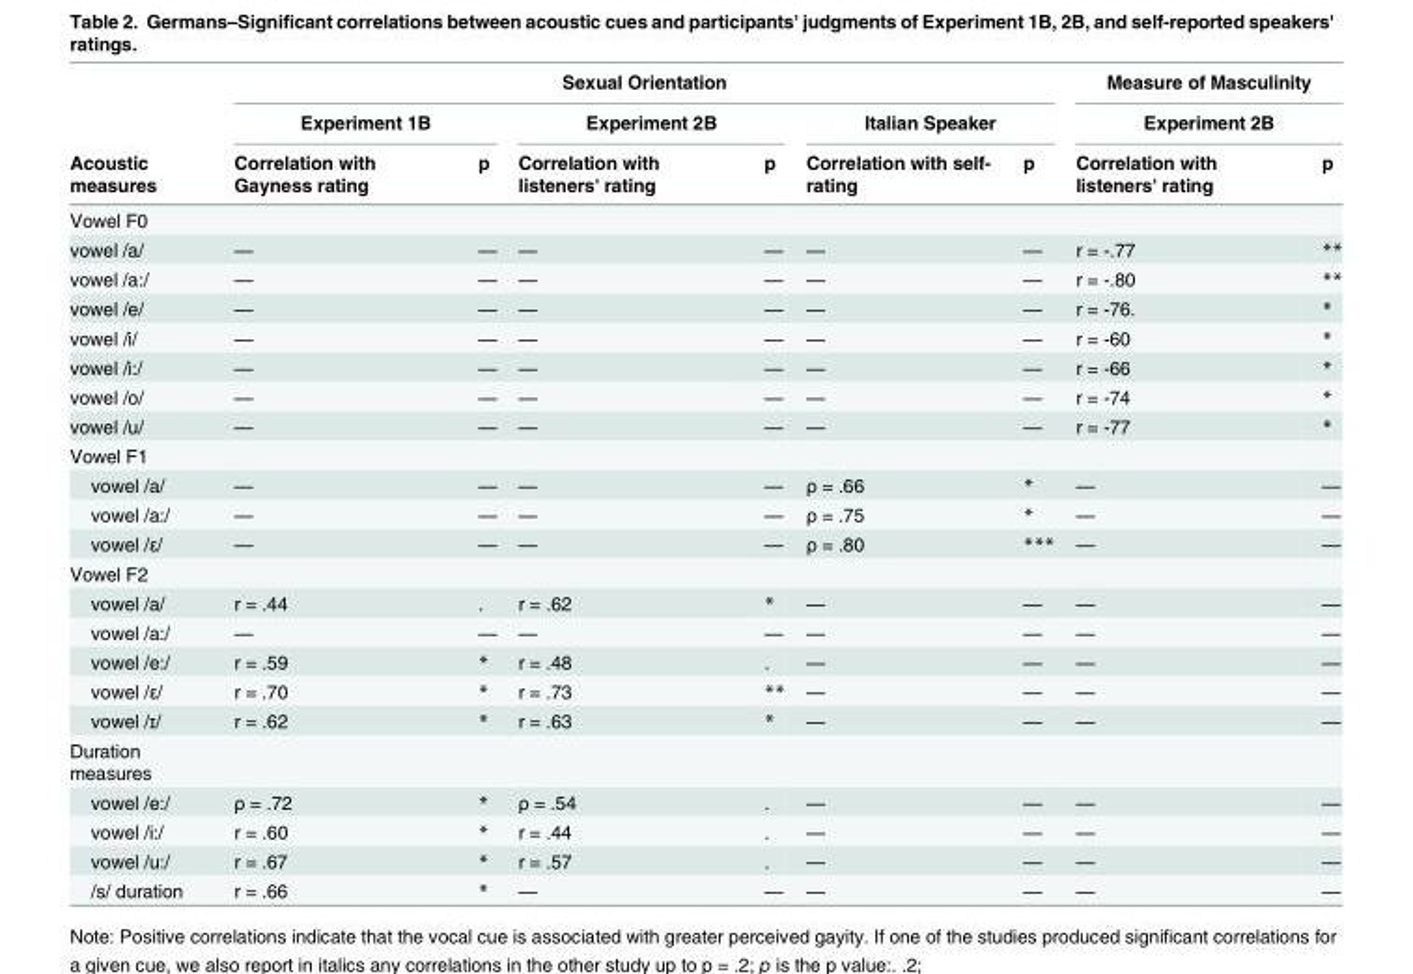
<table><thead><tr><td rowspan="3">Acoustic measures</td><td colspan="6">Sexual Orientation</td><td rowspan="2" colspan="2">Measure of Masculinity Experiment 2B</td></tr><tr><td colspan="2">Experiment 1B</td><td colspan="2">Experiment 2B</td><td colspan="2">Italian Speaker</td></tr><tr><td>Correlation with Gayness rating</td><td>p</td><td>Correlation with listeners&#x27; rating</td><td>p</td><td>Correlation with self- rating</td><td>p</td><td>Correlation with listeners&#x27; rating</td><td>p</td></tr></thead><tbody><tr><td colspan="9">Vowel F0</td></tr><tr><td>vowel /a/</td><td>—</td><td>—</td><td>—</td><td>—</td><td>—</td><td>—</td><td>r = -.77</td><td>**</td></tr><tr><td>vowel /a:/</td><td>—</td><td>—</td><td>—</td><td>—</td><td>—</td><td>—</td><td>r = -.80</td><td>**</td></tr><tr><td>vowel /e/</td><td>—</td><td>—</td><td>—</td><td>—</td><td>—</td><td>—</td><td>r = -76.</td><td>*</td></tr><tr><td>vowel /i/</td><td>—</td><td>—</td><td>—</td><td>—</td><td>—</td><td>—</td><td>r = -60</td><td>*</td></tr><tr><td>vowel /i:/</td><td>—</td><td>—</td><td>—</td><td>—</td><td>—</td><td>—</td><td>r = -66</td><td>*</td></tr><tr><td>vowel /o/</td><td>—</td><td>—</td><td>—</td><td>—</td><td>—</td><td>—</td><td>r = -74</td><td>*</td></tr><tr><td>vowel /u/</td><td>—</td><td>—</td><td>—</td><td>—</td><td>—</td><td>—</td><td>r = -77</td><td>*</td></tr><tr><td colspan="9">Vowel F1</td></tr><tr><td>vowel /a/</td><td>—</td><td>—</td><td>—</td><td>—</td><td>ρ = .66</td><td>*</td><td>—</td><td>—</td></tr><tr><td>vowel /a:/</td><td>—</td><td>—</td><td>—</td><td>—</td><td>ρ = .75</td><td>*</td><td>—</td><td>—</td></tr><tr><td>vowel /ε/</td><td>—</td><td>—</td><td>—</td><td>—</td><td>ρ = .80</td><td>***</td><td>—</td><td>—</td></tr><tr><td colspan="9">Vowel F2</td></tr><tr><td>vowel /a/</td><td>r = .44</td><td>.</td><td>r = .62</td><td>*</td><td>—</td><td>—</td><td>—</td><td>—</td></tr><tr><td>vowel /a:/</td><td>—</td><td>—</td><td>—</td><td>—</td><td>—</td><td>—</td><td>—</td><td>—</td></tr><tr><td>vowel /e:/</td><td>r = .59</td><td>*</td><td>r = .48</td><td>.</td><td>—</td><td>—</td><td>—</td><td>—</td></tr><tr><td>vowel /ε/</td><td>r = .70</td><td>*</td><td>r = .73</td><td>**</td><td>—</td><td>—</td><td>—</td><td>—</td></tr><tr><td>vowel /ɪ/</td><td>r = .62</td><td>*</td><td>r = .63</td><td>*</td><td>—</td><td>—</td><td>—</td><td>—</td></tr><tr><td colspan="9">Duration measures</td></tr><tr><td>vowel /e:/</td><td>ρ = .72</td><td>*</td><td>ρ = .54</td><td>.</td><td>—</td><td>—</td><td>—</td><td>—</td></tr><tr><td>vowel /i:/</td><td>r = .60</td><td>*</td><td>r = .44</td><td>.</td><td>—</td><td>—</td><td>—</td><td>—</td></tr><tr><td>vowel /u:/</td><td>r = .67</td><td>*</td><td>r = .57</td><td>.</td><td>—</td><td>—</td><td>—</td><td>—</td></tr><tr><td>/s/ duration</td><td>r = .66</td><td>*</td><td>—</td><td>—</td><td>—</td><td>—</td><td>—</td><td>—</td></tr></tbody></table>